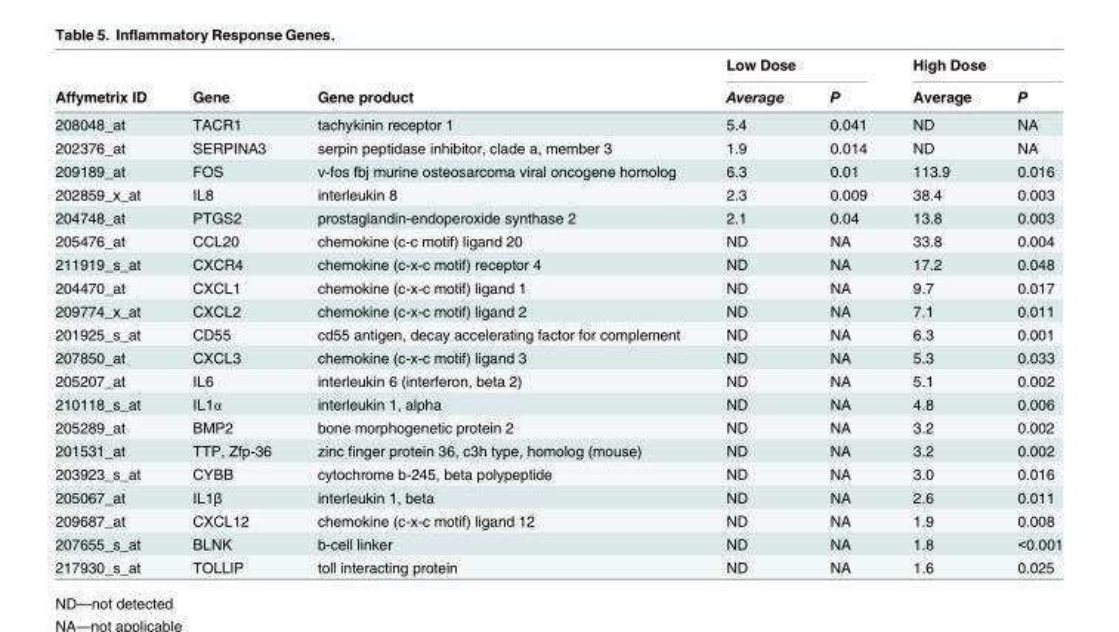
<table><thead><tr><td rowspan="2">Affymetrix ID</td><td rowspan="2">Gene</td><td rowspan="2">Gene product</td><td colspan="2">Low Dose</td><td colspan="2">High Dose</td></tr><tr><td>Average</td><td>P</td><td>Average</td><td>P</td></tr></thead><tbody><tr><td>208048_at</td><td>TACR1</td><td>tachykinin receptor 1</td><td>5.4</td><td>0.041</td><td>ND</td><td>NA</td></tr><tr><td>202376_at</td><td>SERPINA3</td><td>serpin peptidase inhibitor, clade a, member 3</td><td>1.9</td><td>0.014</td><td>ND</td><td>NA</td></tr><tr><td>209189_at</td><td>FOS</td><td>v-fos fbj murine osteosarcoma viral oncogene homolog</td><td>6.3</td><td>0.01</td><td>113.9</td><td>0.016</td></tr><tr><td>202859_x_at</td><td>IL8</td><td>interleukin 8</td><td>2.3</td><td>0.009</td><td>38.4</td><td>0.003</td></tr><tr><td>204748_at</td><td>PTGS2</td><td>prostaglandin-endoperoxide synthase 2</td><td>2.1</td><td>0.04</td><td>13.8</td><td>0.003</td></tr><tr><td>205476_at</td><td>CCL20</td><td>chemokine (c-c motif) ligand 20</td><td>ND</td><td>NA</td><td>33.8</td><td>0.004</td></tr><tr><td>211919_s_at</td><td>CXCR4</td><td>chemokine (c-x-c motif) receptor 4</td><td>ND</td><td>NA</td><td>17.2</td><td>0.048</td></tr><tr><td>204470_at</td><td>CXCL1</td><td>chemokine (c-x-c motif) ligand 1</td><td>ND</td><td>NA</td><td>9.7</td><td>0.017</td></tr><tr><td>209774_x_at</td><td>CXCL2</td><td>chemokine (c-x-c motif) ligand 2</td><td>ND</td><td>NA</td><td>7.1</td><td>0.011</td></tr><tr><td>201925_s_at</td><td>CD55</td><td>cd55 antigen, decay accelerating factor for complement</td><td>ND</td><td>NA</td><td>6.3</td><td>0.001</td></tr><tr><td>207850_at</td><td>CXCL3</td><td>chemokine (c-x-c motif) ligand 3</td><td>ND</td><td>NA</td><td>5.3</td><td>0.033</td></tr><tr><td>205207_at</td><td>IL6</td><td>interleukin 6 (interferon, beta 2)</td><td>ND</td><td>NA</td><td>5.1</td><td>0.002</td></tr><tr><td>210118_s_at</td><td>IL1⍺</td><td>interleukin 1, alpha</td><td>ND</td><td>NA</td><td>4.8</td><td>0.006</td></tr><tr><td>205289_at</td><td>BMP2</td><td>bone morphogenetic protein 2</td><td>ND</td><td>NA</td><td>3.2</td><td>0.002</td></tr><tr><td>201531_at</td><td>TTP, Zfp-36</td><td>zinc finger protein 36, c3h type, homolog (mouse)</td><td>ND</td><td>NA</td><td>3.2</td><td>0.002</td></tr><tr><td>203923_s_at</td><td>CYBB</td><td>cytochrome b-245, beta polypeptide</td><td>ND</td><td>NA</td><td>3.0</td><td>0.016</td></tr><tr><td>205067_at</td><td>IL1β</td><td>interleukin 1, beta</td><td>ND</td><td>NA</td><td>2.6</td><td>0.011</td></tr><tr><td>209687_at</td><td>CXCL12</td><td>chemokine (c-x-c motif) ligand 12</td><td>ND</td><td>NA</td><td>1.9</td><td>0.008</td></tr><tr><td>207655_s_at</td><td>BLNK</td><td>b-cell linker</td><td>ND</td><td>NA</td><td>1.8</td><td>&lt;0.001</td></tr><tr><td>217930_s_at</td><td>TOLLIP</td><td>toll interacting protein</td><td>ND</td><td>NA</td><td>1.6</td><td>0.025</td></tr></tbody></table>